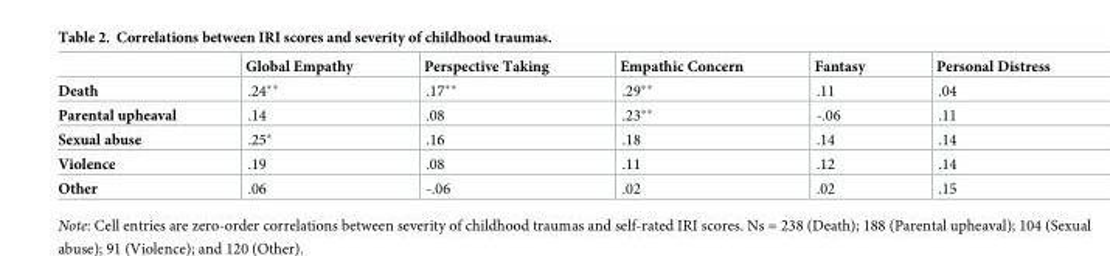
<table><thead><tr><td></td><td>Global Empathy</td><td>Perspective Taking</td><td>Empathic Concern</td><td>Fantasy</td><td>Personal Distress</td></tr></thead><tbody><tr><td>Death</td><td>.24**</td><td>.17**</td><td>.29**</td><td>.11</td><td>.04</td></tr><tr><td>Parental upheaval</td><td>.14</td><td>.08</td><td>.23**</td><td>-.06</td><td>.11</td></tr><tr><td>Sexual abuse</td><td>.25*</td><td>.16</td><td>.18</td><td>.14</td><td>.14</td></tr><tr><td>Violence</td><td>.19</td><td>.08</td><td>.11</td><td>.12</td><td>.14</td></tr><tr><td>Other</td><td>.06</td><td>-.06</td><td>.02</td><td>.02</td><td>.15</td></tr></tbody></table>